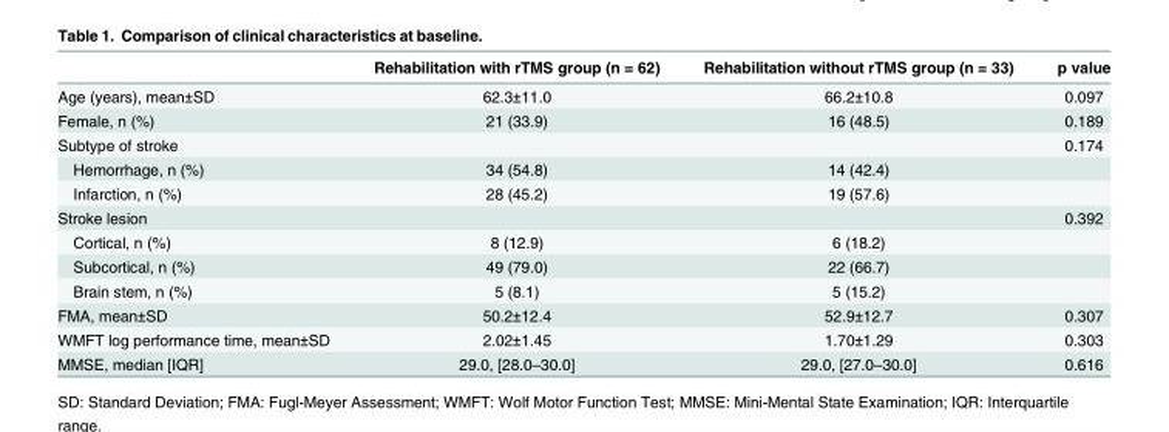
<table><thead><tr><td></td><td>Rehabilitation with rTMS group (n = 62)</td><td>Rehabilitation without rTMS group (n = 33)</td><td>p value</td></tr></thead><tbody><tr><td>Age (years), mean±SD</td><td>62.3±11.0</td><td>66.2±10.8</td><td>0.097</td></tr><tr><td>Female, n (%)</td><td>21 (33.9)</td><td>16 (48.5)</td><td>0.189</td></tr><tr><td>Subtype of stroke</td><td></td><td></td><td>0.174</td></tr><tr><td>Hemorrhage, n (%)</td><td>34 (54.8)</td><td>14 (42.4)</td><td></td></tr><tr><td>Infarction, n (%)</td><td>28 (45.2)</td><td>19 (57.6)</td><td></td></tr><tr><td>Stroke lesion</td><td></td><td></td><td>0.392</td></tr><tr><td>Cortical, n (%)</td><td>8 (12.9)</td><td>6 (18.2)</td><td></td></tr><tr><td>Subcortical, n (%)</td><td>49 (79.0)</td><td>22 (66.7)</td><td></td></tr><tr><td>Brain stem, n (%)</td><td>5 (8.1)</td><td>5 (15.2)</td><td></td></tr><tr><td>FMA, mean±SD</td><td>50.2±12.4</td><td>52.9±12.7</td><td>0.307</td></tr><tr><td>WMFT log performance time, mean±SD</td><td>2.02±1.45</td><td>1.70±1.29</td><td>0.303</td></tr><tr><td>MMSE, median [IQR]</td><td>29.0, [28.0–30.0]</td><td>29.0, [27.0–30.0]</td><td>0.616</td></tr></tbody></table>